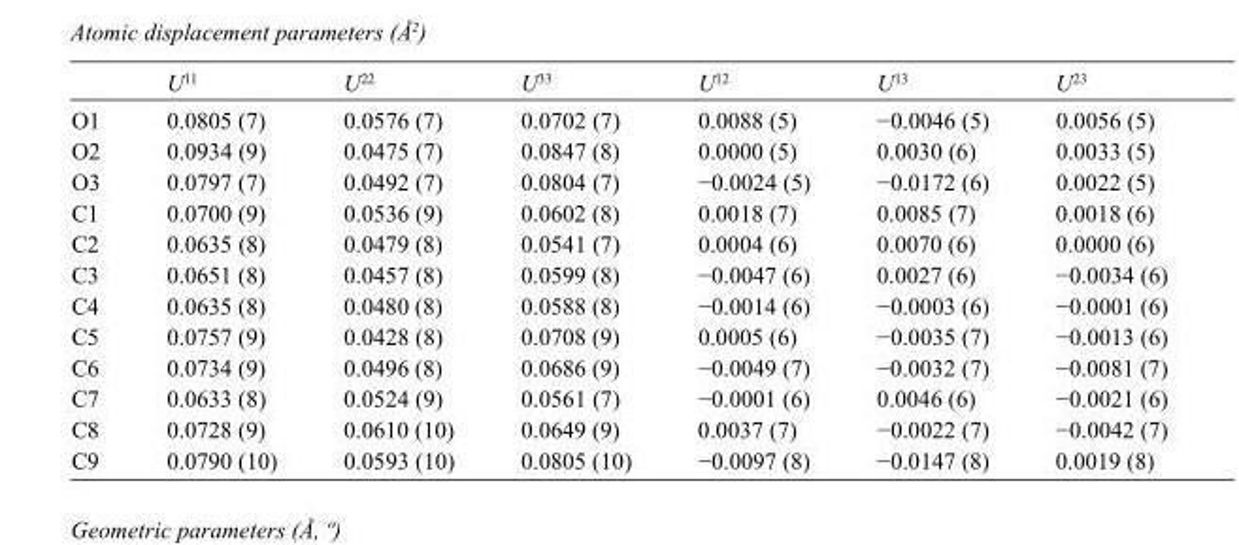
<table><thead><tr><td></td><td>U<sup>11</sup></td><td>U<sup>22</sup></td><td>U<sup>33</sup></td><td>U<sup>12</sup></td><td>U<sup>13</sup></td><td>U<sup>23</sup></td></tr></thead><tbody><tr><td>O1</td><td>0.0805 (7)</td><td>0.0576 (7)</td><td>0.0702 (7)</td><td>0.0088 (5)</td><td>−0.0046 (5)</td><td>0.0056 (5)</td></tr><tr><td>O2</td><td>0.0934 (9)</td><td>0.0475 (7)</td><td>0.0847 (8)</td><td>0.0000 (5)</td><td>0.0030 (6)</td><td>0.0033 (5)</td></tr><tr><td>O3</td><td>0.0797 (7)</td><td>0.0492 (7)</td><td>0.0804 (7)</td><td>−0.0024 (5)</td><td>−0.0172 (6)</td><td>0.0022 (5)</td></tr><tr><td>C1</td><td>0.0700 (9)</td><td>0.0536 (9)</td><td>0.0602 (8)</td><td>0.0018 (7)</td><td>0.0085 (7)</td><td>0.0018 (6)</td></tr><tr><td>C2</td><td>0.0635 (8)</td><td>0.0479 (8)</td><td>0.0541 (7)</td><td>0.0004 (6)</td><td>0.0070 (6)</td><td>0.0000 (6)</td></tr><tr><td>C3</td><td>0.0651 (8)</td><td>0.0457 (8)</td><td>0.0599 (8)</td><td>−0.0047 (6)</td><td>0.0027 (6)</td><td>−0.0034 (6)</td></tr><tr><td>C4</td><td>0.0635 (8)</td><td>0.0480 (8)</td><td>0.0588 (8)</td><td>−0.0014 (6)</td><td>−0.0003 (6)</td><td>−0.0001 (6)</td></tr><tr><td>C5</td><td>0.0757 (9)</td><td>0.0428 (8)</td><td>0.0708 (9)</td><td>0.0005 (6)</td><td>−0.0035 (7)</td><td>−0.0013 (6)</td></tr><tr><td>C6</td><td>0.0734 (9)</td><td>0.0496 (8)</td><td>0.0686 (9)</td><td>−0.0049 (7)</td><td>−0.0032 (7)</td><td>−0.0081 (7)</td></tr><tr><td>C7</td><td>0.0633 (8)</td><td>0.0524 (9)</td><td>0.0561 (7)</td><td>−0.0001 (6)</td><td>0.0046 (6)</td><td>−0.0021 (6)</td></tr><tr><td>C8</td><td>0.0728 (9)</td><td>0.0610 (10)</td><td>0.0649 (9)</td><td>0.0037 (7)</td><td>−0.0022 (7)</td><td>−0.0042 (7)</td></tr><tr><td>C9</td><td>0.0790 (10)</td><td>0.0593 (10)</td><td>0.0805 (10)</td><td>−0.0097 (8)</td><td>−0.0147 (8)</td><td>0.0019 (8)</td></tr></tbody></table>